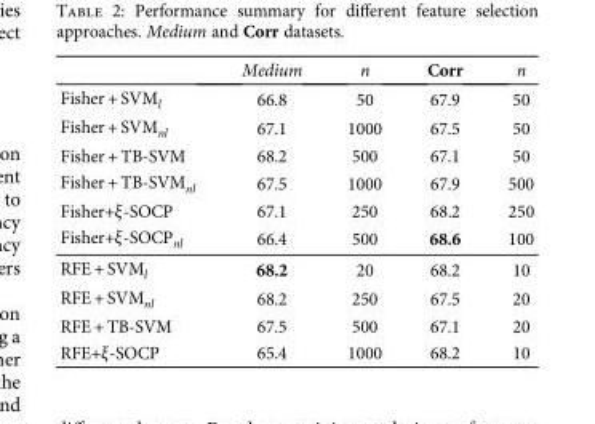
<table><thead><tr><td></td><td>Medium</td><td>n</td><td>Corr</td><td>n</td></tr></thead><tbody><tr><td>Fisher + SVM<sub>l</sub></td><td>66.8</td><td>50</td><td>67.9</td><td>50</td></tr><tr><td>Fisher + SVM<sub>nl</sub></td><td>67.1</td><td>1000</td><td>67.5</td><td>50</td></tr><tr><td>Fisher + TB-SVM</td><td>68.2</td><td>500</td><td>67.1</td><td>50</td></tr><tr><td>Fisher + TB-SVM<sub>nl</sub></td><td>67.5</td><td>1000</td><td>67.9</td><td>500</td></tr><tr><td>Fisher+ξ-SOCP</td><td>67.1</td><td>250</td><td>68.2</td><td>250</td></tr><tr><td>Fisher+ξ-SOCP<sub>nl</sub></td><td>66.4</td><td>500</td><td>68.6</td><td>100</td></tr><tr><td>RFE + SVM<sub>l</sub></td><td>68.2</td><td>20</td><td>68.2</td><td>10</td></tr><tr><td>RFE + SVM<sub>nl</sub></td><td>68.2</td><td>250</td><td>67.5</td><td>20</td></tr><tr><td>RFE + TB-SVM</td><td>67.5</td><td>500</td><td>67.1</td><td>20</td></tr><tr><td>RFE+ξ-SOCP</td><td>65.4</td><td>1000</td><td>68.2</td><td>10</td></tr></tbody></table>